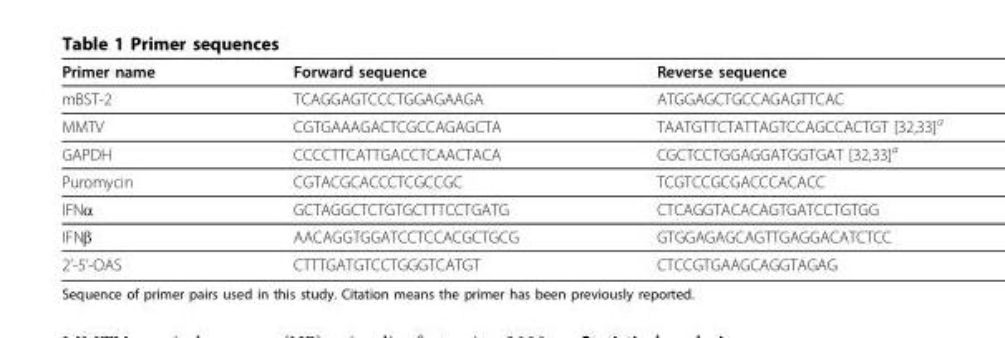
<table><thead><tr><td>Primer name</td><td>Forward sequence</td><td>Reverse sequence</td></tr></thead><tbody><tr><td>mBST-2</td><td>TCAGGAGTCCCTGGAGAAGA</td><td>ATGGAGCTGCCAGAGTTCAC</td></tr><tr><td>MMTV</td><td>CGTGAAAGACTCGCCAGAGCTA</td><td>TAATGTTCTATTAGTCCAGCCACTGT [32,33]<sup>a</sup></td></tr><tr><td>GAPDH</td><td>CCCCTTCATTGACCTCAACTACA</td><td>CGCTCCTGGAGGATGGTGAT [32,33]<sup>a</sup></td></tr><tr><td>Puromycin</td><td>CGTACGCACCCTCGCCGC</td><td>TCGTCCGCGACCCACACC</td></tr><tr><td>IFNα</td><td>GCTAGGCTCTGTGCTTTCCTGATG</td><td>CTCAGGTACACAGTGATCCTGTGG</td></tr><tr><td>IFNβ</td><td>AACAGGTGGATCCTCCACGCTGCG</td><td>GTGGAGAGCAGTTGAGGACATCTCC</td></tr><tr><td>2’-5’-OAS</td><td>CTTTGATGTCCTGGGTCATGT</td><td>CTCCGTGAAGCAGGTAGAG</td></tr></tbody></table>